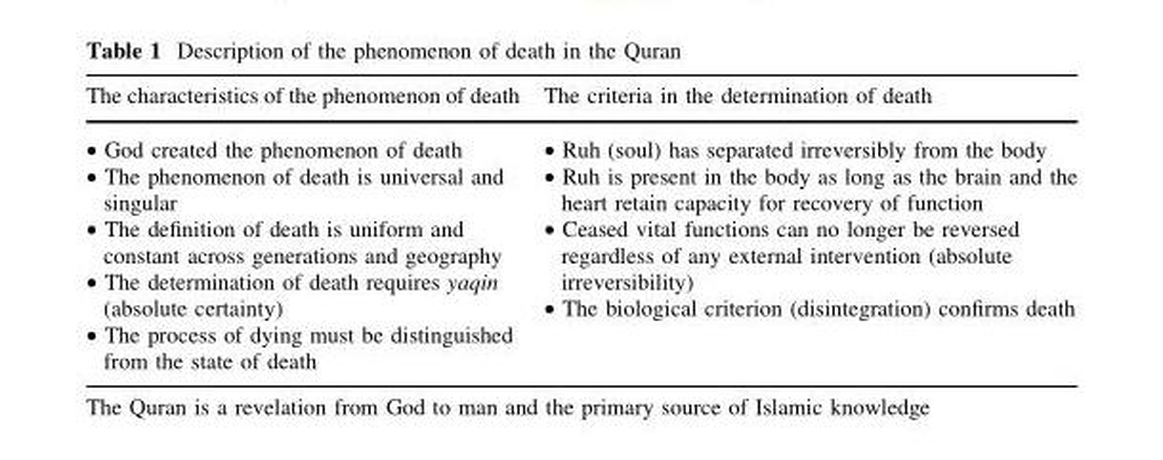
<table><thead><tr><td>The characteristics of the phenomenon of death</td><td>The criteria in the determination of death</td></tr></thead><tbody><tr><td>• God created the phenomenon of death • The phenomenon of death is universal and singular • The definition of death is uniform and constant across generations and geography • The determination of death requires yaqin (absolute certainty) • The process of dying must be distinguished from the state of death</td><td>• Ruh (soul) has separated irreversibly from the body • Ruh is present in the body as long as the brain and the heart retain capacity for recovery of function • Ceased vital functions can no longer be reversed regardless of any external intervention (absolute irreversibility) • The biological criterion (disintegration) confirms death</td></tr></tbody></table>